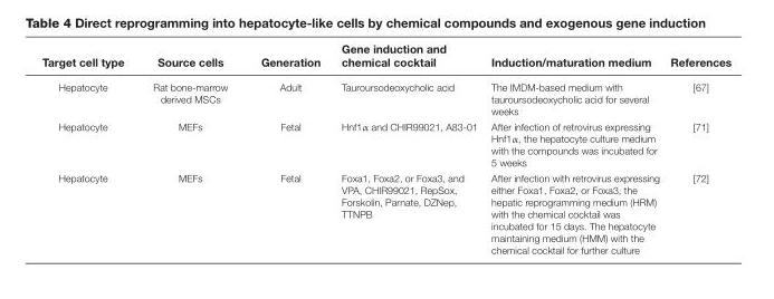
<table><thead><tr><td>Target cell type</td><td>Source cells</td><td>Generation</td><td>Gene induction and chemical cocktail</td><td>Induction/maturation medium</td><td>References</td></tr></thead><tbody><tr><td>Hepatocyte</td><td>Rat bone-marrow derived MSCs</td><td>Adult</td><td>Tauroursodeoxycholic acid</td><td>The IMDM-based medium with tauroursodeoxycholic acid for several weeks</td><td>[67]</td></tr><tr><td>Hepatocyte</td><td>MEFs</td><td>Fetal</td><td>Hnf1α and CHIR99021, A83-01</td><td>After infection of retrovirus expressing Hnf1α, the hepatocyte culture medium with the compounds was incubated for 5 weeks</td><td>[71]</td></tr><tr><td>Hepatocyte</td><td>MEFs</td><td>Fetal</td><td>Foxa1, Foxa2, or Foxa3, and VPA, CHIR99021, RepSox, Forskolin, Parnate, DZNep, TTNPB</td><td>After infection with retrovirus expressing either Foxa1, Foxa2, or Foxa3, the hepatic reprogramming medium (HRM) with the chemical cocktail was incubated for 15 days. The hepatocyte maintaining medium (HMM) with the chemical cocktail for further culture</td><td>[72]</td></tr></tbody></table>